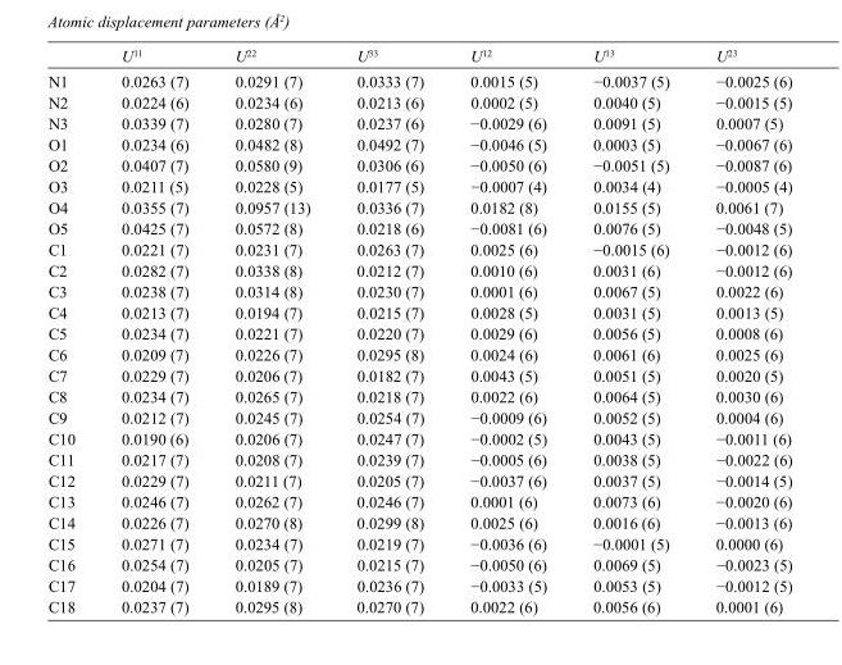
<table><thead><tr><td></td><td>U<sup>11</sup></td><td>U<sup>22</sup></td><td>U<sup>33</sup></td><td>U<sup>12</sup></td><td>U<sup>13</sup></td><td>U<sup>23</sup></td></tr></thead><tbody><tr><td>N1</td><td>0.0263 (7)</td><td>0.0291 (7)</td><td>0.0333 (7)</td><td>0.0015 (5)</td><td>−0.0037 (5)</td><td>−0.0025 (6)</td></tr><tr><td>N2</td><td>0.0224 (6)</td><td>0.0234 (6)</td><td>0.0213 (6)</td><td>0.0002 (5)</td><td>0.0040 (5)</td><td>−0.0015 (5)</td></tr><tr><td>N3</td><td>0.0339 (7)</td><td>0.0280 (7)</td><td>0.0237 (6)</td><td>−0.0029 (6)</td><td>0.0091 (5)</td><td>0.0007 (5)</td></tr><tr><td>O1</td><td>0.0234 (6)</td><td>0.0482 (8)</td><td>0.0492 (7)</td><td>−0.0046 (5)</td><td>0.0003 (5)</td><td>−0.0067 (6)</td></tr><tr><td>O2</td><td>0.0407 (7)</td><td>0.0580 (9)</td><td>0.0306 (6)</td><td>−0.0050 (6)</td><td>−0.0051 (5)</td><td>−0.0087 (6)</td></tr><tr><td>O3</td><td>0.0211 (5)</td><td>0.0228 (5)</td><td>0.0177 (5)</td><td>−0.0007 (4)</td><td>0.0034 (4)</td><td>−0.0005 (4)</td></tr><tr><td>O4</td><td>0.0355 (7)</td><td>0.0957 (13)</td><td>0.0336 (7)</td><td>0.0182 (8)</td><td>0.0155 (5)</td><td>0.0061 (7)</td></tr><tr><td>O5</td><td>0.0425 (7)</td><td>0.0572 (8)</td><td>0.0218 (6)</td><td>−0.0081 (6)</td><td>0.0076 (5)</td><td>−0.0048 (5)</td></tr><tr><td>C1</td><td>0.0221 (7)</td><td>0.0231 (7)</td><td>0.0263 (7)</td><td>0.0025 (6)</td><td>−0.0015 (6)</td><td>−0.0012 (6)</td></tr><tr><td>C2</td><td>0.0282 (7)</td><td>0.0338 (8)</td><td>0.0212 (7)</td><td>0.0010 (6)</td><td>0.0031 (6)</td><td>−0.0012 (6)</td></tr><tr><td>C3</td><td>0.0238 (7)</td><td>0.0314 (8)</td><td>0.0230 (7)</td><td>0.0001 (6)</td><td>0.0067 (5)</td><td>0.0022 (6)</td></tr><tr><td>C4</td><td>0.0213 (7)</td><td>0.0194 (7)</td><td>0.0215 (7)</td><td>0.0028 (5)</td><td>0.0031 (5)</td><td>0.0013 (5)</td></tr><tr><td>C5</td><td>0.0234 (7)</td><td>0.0221 (7)</td><td>0.0220 (7)</td><td>0.0029 (6)</td><td>0.0056 (5)</td><td>0.0008 (6)</td></tr><tr><td>C6</td><td>0.0209 (7)</td><td>0.0226 (7)</td><td>0.0295 (8)</td><td>0.0024 (6)</td><td>0.0061 (6)</td><td>0.0025 (6)</td></tr><tr><td>C7</td><td>0.0229 (7)</td><td>0.0206 (7)</td><td>0.0182 (7)</td><td>0.0043 (5)</td><td>0.0051 (5)</td><td>0.0020 (5)</td></tr><tr><td>C8</td><td>0.0234 (7)</td><td>0.0265 (7)</td><td>0.0218 (7)</td><td>0.0022 (6)</td><td>0.0064 (5)</td><td>0.0030 (6)</td></tr><tr><td>C9</td><td>0.0212 (7)</td><td>0.0245 (7)</td><td>0.0254 (7)</td><td>−0.0009 (6)</td><td>0.0052 (5)</td><td>0.0004 (6)</td></tr><tr><td>C10</td><td>0.0190 (6)</td><td>0.0206 (7)</td><td>0.0247 (7)</td><td>−0.0002 (5)</td><td>0.0043 (5)</td><td>−0.0011 (6)</td></tr><tr><td>C11</td><td>0.0217 (7)</td><td>0.0208 (7)</td><td>0.0239 (7)</td><td>−0.0005 (6)</td><td>0.0038 (5)</td><td>−0.0022 (6)</td></tr><tr><td>C12</td><td>0.0229 (7)</td><td>0.0211 (7)</td><td>0.0205 (7)</td><td>−0.0037 (6)</td><td>0.0037 (5)</td><td>−0.0014 (5)</td></tr><tr><td>C13</td><td>0.0246 (7)</td><td>0.0262 (7)</td><td>0.0246 (7)</td><td>0.0001 (6)</td><td>0.0073 (6)</td><td>−0.0020 (6)</td></tr><tr><td>C14</td><td>0.0226 (7)</td><td>0.0270 (8)</td><td>0.0299 (8)</td><td>0.0025 (6)</td><td>0.0016 (6)</td><td>−0.0013 (6)</td></tr><tr><td>C15</td><td>0.0271 (7)</td><td>0.0234 (7)</td><td>0.0219 (7)</td><td>−0.0036 (6)</td><td>−0.0001 (5)</td><td>0.0000 (6)</td></tr><tr><td>C16</td><td>0.0254 (7)</td><td>0.0205 (7)</td><td>0.0215 (7)</td><td>−0.0050 (6)</td><td>0.0069 (5)</td><td>−0.0023 (5)</td></tr><tr><td>C17</td><td>0.0204 (7)</td><td>0.0189 (7)</td><td>0.0236 (7)</td><td>−0.0033 (5)</td><td>0.0053 (5)</td><td>−0.0012 (5)</td></tr><tr><td>C18</td><td>0.0237 (7)</td><td>0.0295 (8)</td><td>0.0270 (7)</td><td>0.0022 (6)</td><td>0.0056 (6)</td><td>0.0001 (6)</td></tr></tbody></table>